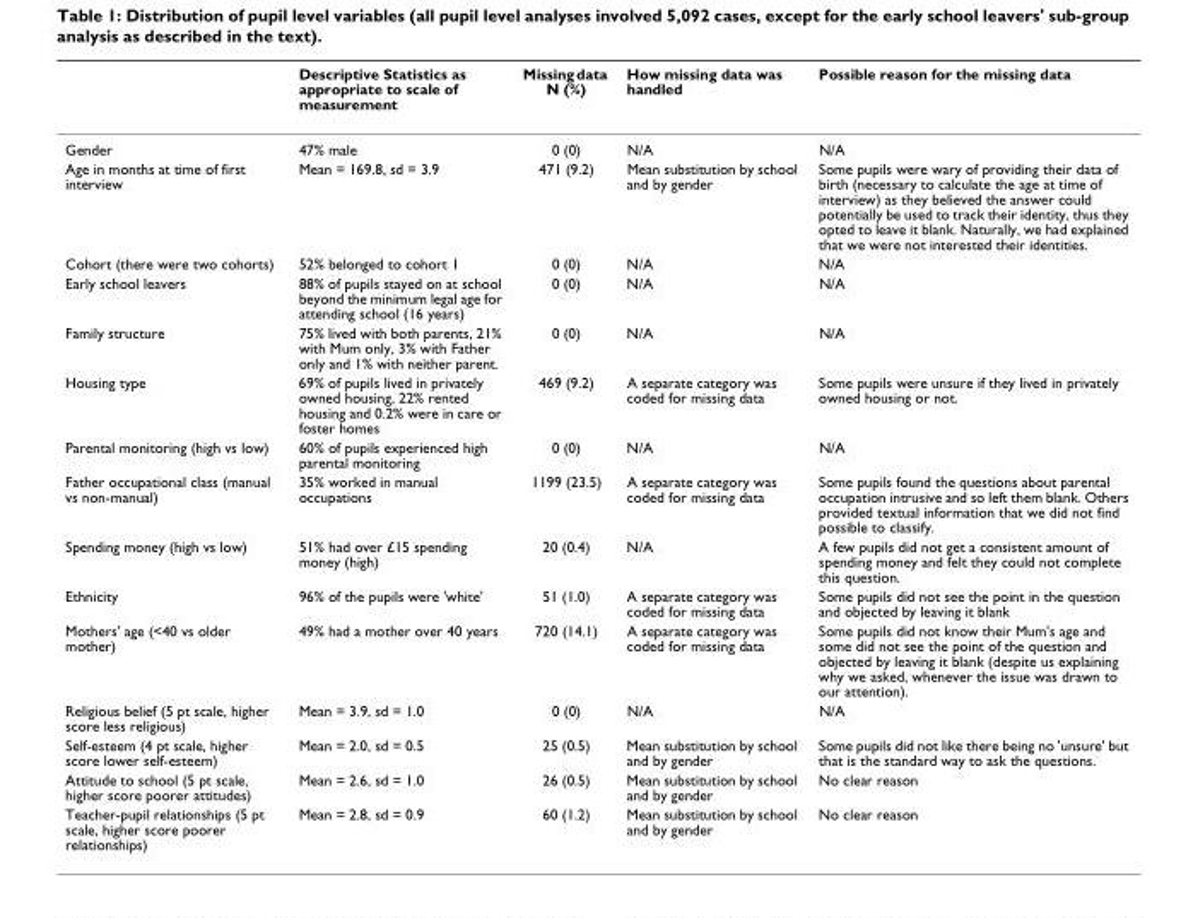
<table><thead><tr><td></td><td>Descriptive Statistics as appropriate to scale of measurement</td><td>Missing data N (%)</td><td>How missing data was handled</td><td>Possible reason for the missing data</td></tr></thead><tbody><tr><td>Gender</td><td>47% male</td><td>0 (0)</td><td>N/A</td><td>N/A</td></tr><tr><td>Age in months at time of first interview</td><td>Mean = 169.8, sd = 3.9</td><td>471 (9.2)</td><td>Mean substitution by school and by gender</td><td>Some pupils were wary of providing their data of birth (necessary to calculate the age at time of interview) as they believed the answer could potentially be used to track their identity, thus they opted to leave it blank. Naturally, we had explained that we were not interested their identities.</td></tr><tr><td>Cohort (there were two cohorts)</td><td>52% belonged to cohort 1</td><td>0 (0)</td><td>N/A</td><td>N/A</td></tr><tr><td>Early school leavers</td><td>88% of pupils stayed on at school beyond the minimum legal age for attending school (16 years)</td><td>0 (0)</td><td>N/A</td><td>N/A</td></tr><tr><td>Family structure</td><td>75% lived with both parents, 21% with Mum only, 3% with Father only and 1% with neither parent.</td><td>0 (0)</td><td>N/A</td><td>N/A</td></tr><tr><td>Housing type</td><td>69% of pupils lived in privately owned housing, 22% rented housing and 0.2% were in care or foster homes</td><td>469 (9.2)</td><td>A separate category was coded for missing data</td><td>Some pupils were unsure if they lived in privately owned housing or not.</td></tr><tr><td>Parental monitoring (high vs low)</td><td>60% of pupils experienced high parental monitoring</td><td>0 (0)</td><td>N/A</td><td>N/A</td></tr><tr><td>Father occupational class (manual vs non-manual)</td><td>35% worked in manual occupations</td><td>1199 (23.5)</td><td>A separate category was coded for missing data</td><td>Some pupils found the questions about parental occupation intrusive and so left them blank. Others provided textual information that we did not find possible to classify.</td></tr><tr><td>Spending money (high vs low)</td><td>51% had over £15 spending money (high)</td><td>20 (0.4)</td><td>N/A</td><td>A few pupils did not get a consistent amount of spending money and felt they could not complete this question.</td></tr><tr><td>Ethnicity</td><td>96% of the pupils were &#x27;white&#x27;</td><td>51 (1.0)</td><td>A separate category was coded for missing data</td><td>Some pupils did not see the point in the question and objected by leaving it blank</td></tr><tr><td>Mothers&#x27; age (&lt;40 vs older mother)</td><td>49% had a mother over 40 years</td><td>720 (14.1)</td><td>A separate category was coded for missing data</td><td>Some pupils did not know their Mum&#x27;s age and some did not see the point of the question and objected by leaving it blank (despite us explaining why we asked, whenever the issue was drawn to our attention).</td></tr><tr><td>Religious belief (5 pt scale, higher score less religious)</td><td>Mean = 3.9, sd = 1.0</td><td>0 (0)</td><td>N/A</td><td>N/A</td></tr><tr><td>Self-esteem (4 pt scale, higher score lower self-esteem)</td><td>Mean = 2.0, sd = 0.5</td><td>25 (0.5)</td><td>Mean substitution by school and by gender</td><td>Some pupils did not like there being no &#x27;unsure&#x27; but that is the standard way to ask the questions.</td></tr><tr><td>Attitude to school (5 pt scale, higher score poorer attitudes)</td><td>Mean = 2.6, sd = 1.0</td><td>26 (0.5)</td><td>Mean substitution by school and by gender</td><td>No clear reason</td></tr><tr><td>Teacher-pupil relationships (5 pt scale, higher score poorer relationships)</td><td>Mean = 2.8, sd = 0.9</td><td>60 (1.2)</td><td>Mean substitution by school and by gender</td><td>No clear reason</td></tr></tbody></table>